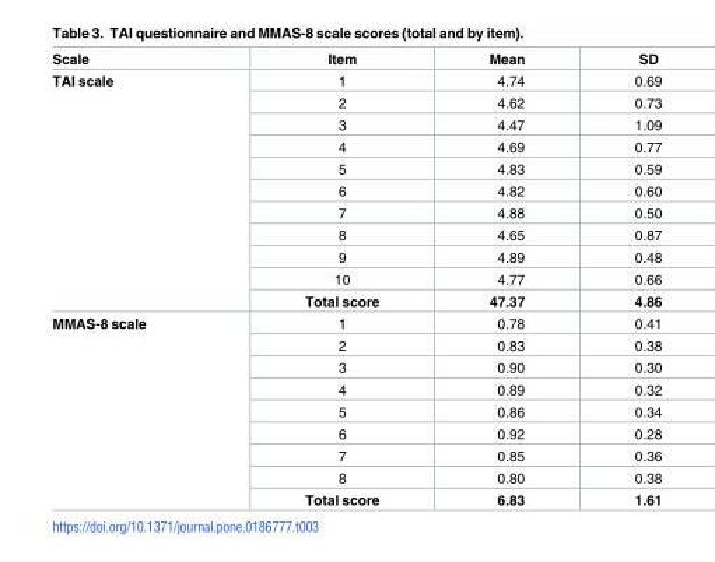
<table><thead><tr><td>Scale</td><td>Item</td><td>Mean</td><td>SD</td></tr></thead><tbody><tr><td rowspan="11">TAI scale</td><td>1</td><td>4.74</td><td>0.69</td></tr><tr><td>2</td><td>4.62</td><td>0.73</td></tr><tr><td>3</td><td>4.47</td><td>1.09</td></tr><tr><td>4</td><td>4.69</td><td>0.77</td></tr><tr><td>5</td><td>4.83</td><td>0.59</td></tr><tr><td>6</td><td>4.82</td><td>0.60</td></tr><tr><td>7</td><td>4.88</td><td>0.50</td></tr><tr><td>8</td><td>4.65</td><td>0.87</td></tr><tr><td>9</td><td>4.89</td><td>0.48</td></tr><tr><td>10</td><td>4.77</td><td>0.66</td></tr><tr><td>Total score</td><td>47.37</td><td>4.86</td></tr><tr><td rowspan="9">MMAS-8 scale</td><td>1</td><td>0.78</td><td>0.41</td></tr><tr><td>2</td><td>0.83</td><td>0.38</td></tr><tr><td>3</td><td>0.90</td><td>0.30</td></tr><tr><td>4</td><td>0.89</td><td>0.32</td></tr><tr><td>5</td><td>0.86</td><td>0.34</td></tr><tr><td>6</td><td>0.92</td><td>0.28</td></tr><tr><td>7</td><td>0.85</td><td>0.36</td></tr><tr><td>8</td><td>0.80</td><td>0.38</td></tr><tr><td>Total score</td><td>6.83</td><td>1.61</td></tr></tbody></table>